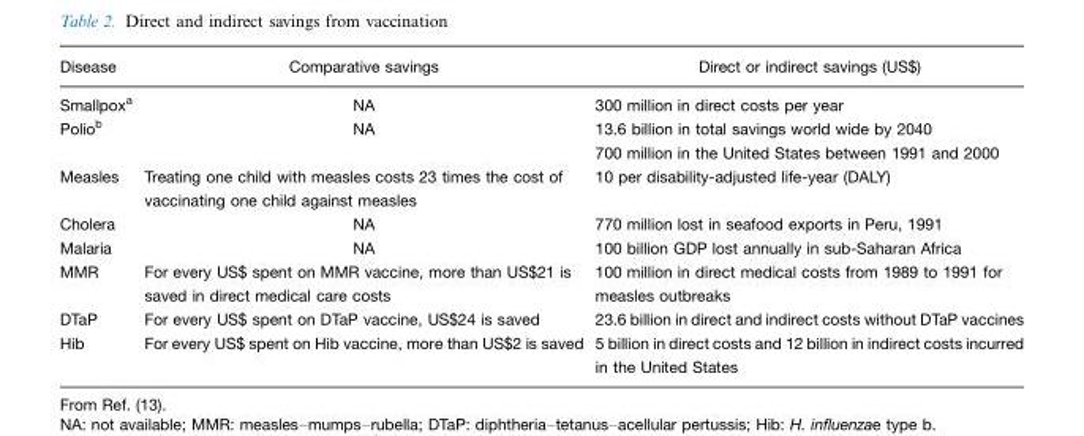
<table><thead><tr><td>Disease</td><td>Comparative savings</td><td>Direct or indirect savings (US$)</td></tr></thead><tbody><tr><td>Smallpox<sup>a</sup></td><td>NA</td><td>300 million in direct costs per year</td></tr><tr><td>Polio<sup>b</sup></td><td>NA</td><td>13.6 billion in total savings world wide by 2040 700 million in the United States between 1991 and 2000</td></tr><tr><td>Measles</td><td>Treating one child with measles costs 23 times the cost of vaccinating one child against measles</td><td>10 per disability-adjusted life-year (DALY)</td></tr><tr><td>Cholera</td><td>NA</td><td>770 million lost in seafood exports in Peru, 1991</td></tr><tr><td>Malaria</td><td>NA</td><td>100 billion GDP lost annually in sub-Saharan Africa</td></tr><tr><td>MMR</td><td>For every US$ spent on MMR vaccine, more than US$21 is saved in direct medical care costs</td><td>100 million in direct medical costs from 1989 to 1991 for measles outbreaks</td></tr><tr><td>DTaP</td><td>For every US$ spent on DTaP vaccine, US$24 is saved</td><td>23.6 billion in direct and indirect costs without DTaP vaccines</td></tr><tr><td>Hib</td><td>For every US$ spent on Hib vaccine, more than US$2 is saved</td><td>5 billion in direct costs and 12 billion in indirect costs incurred in the United States</td></tr></tbody></table>